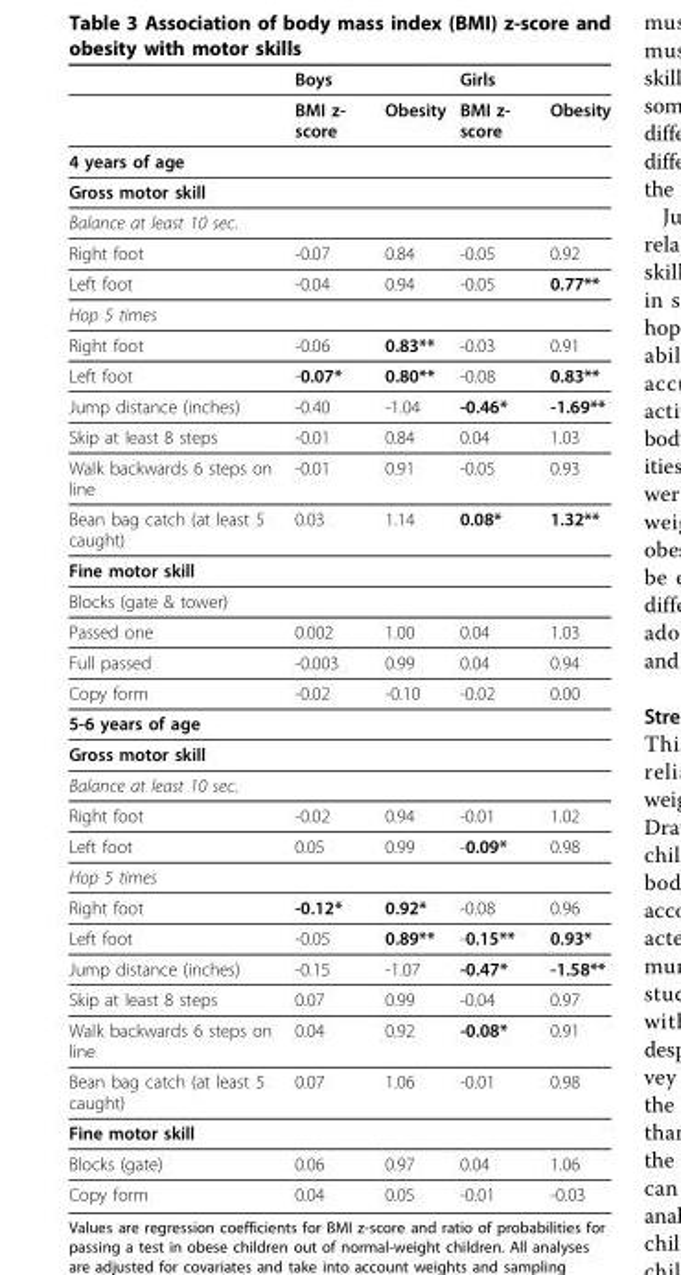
<table><thead><tr><td rowspan="2"></td><td colspan="2">Boys</td><td colspan="2">Girls</td></tr><tr><td>BMI z- score</td><td>Obesity</td><td>BMI z- score</td><td>Obesity</td></tr></thead><tbody><tr><td colspan="5">4 years of age</td></tr><tr><td colspan="5">Gross motor skill</td></tr><tr><td colspan="5">Balance at least 10 sec.</td></tr><tr><td>Right foot</td><td>-0.07</td><td>0.84</td><td>-0.05</td><td>0.92</td></tr><tr><td>Left foot</td><td>-0.04</td><td>0.94</td><td>-0.05</td><td>0.77**</td></tr><tr><td colspan="5">Hop 5 times</td></tr><tr><td>Right foot</td><td>-0.06</td><td>0.83**</td><td>-0.03</td><td>0.91</td></tr><tr><td>Left foot</td><td>-0.07*</td><td>0.80**</td><td>-0.08</td><td>0.83**</td></tr><tr><td>Jump distance (inches)</td><td>-0.40</td><td>-1.04</td><td>-0.46*</td><td>-1.69**</td></tr><tr><td>Skip at least 8 steps</td><td>-0.01</td><td>0.84</td><td>0.04</td><td>1.03</td></tr><tr><td>Walk backwards 6 steps on line</td><td>-0.01</td><td>0.91</td><td>-0.05</td><td>0.93</td></tr><tr><td>Bean bag catch (at least 5 caught)</td><td>0.03</td><td>1.14</td><td>0.08*</td><td>1.32**</td></tr><tr><td colspan="5">Fine motor skill</td></tr><tr><td colspan="5">Blocks (gate &amp; tower)</td></tr><tr><td>Passed one</td><td>0.002</td><td>1.00</td><td>0.04</td><td>1.03</td></tr><tr><td>Full passed</td><td>-0.003</td><td>0.99</td><td>0.04</td><td>0.94</td></tr><tr><td>Copy form</td><td>-0.02</td><td>-0.10</td><td>-0.02</td><td>0.00</td></tr><tr><td colspan="5">5-6 years of age</td></tr><tr><td colspan="5">Gross motor skill</td></tr><tr><td colspan="5">Balance at least 10 sec.</td></tr><tr><td>Right foot</td><td>-0.02</td><td>0.94</td><td>-0.01</td><td>1.02</td></tr><tr><td>Left foot</td><td>0.05</td><td>0.99</td><td>-0.09*</td><td>0.98</td></tr><tr><td colspan="5">Hop 5 times</td></tr><tr><td>Right foot</td><td>-0.12*</td><td>0.92*</td><td>-0.08</td><td>0.96</td></tr><tr><td>Left foot</td><td>-0.05</td><td>0.89**</td><td>-0.15**</td><td>0.93*</td></tr><tr><td>Jump distance (inches)</td><td>-0.15</td><td>-1.07</td><td>-0.47*</td><td>-1.58**</td></tr><tr><td>Skip at least 8 steps</td><td>0.07</td><td>0.99</td><td>-0.04</td><td>0.97</td></tr><tr><td>Walk backwards 6 steps on line</td><td>0.04</td><td>0.92</td><td>-0.08*</td><td>0.91</td></tr><tr><td>Bean bag catch (at least 5 caught)</td><td>0.07</td><td>1.06</td><td>-0.01</td><td>0.98</td></tr><tr><td colspan="5">Fine motor skill</td></tr><tr><td>Blocks (gate)</td><td>0.06</td><td>0.97</td><td>0.04</td><td>1.06</td></tr><tr><td>Copy form</td><td>0.04</td><td>0.05</td><td>-0.01</td><td>-0.03</td></tr></tbody></table>